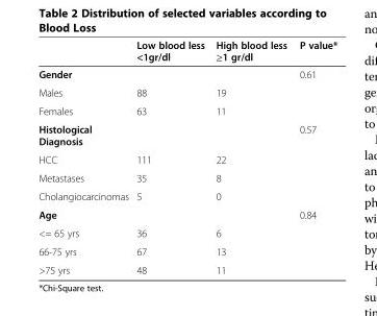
<table><thead><tr><td></td><td>Low blood less &lt;1gr/dl</td><td>High blood less ≥1 gr/dl</td><td>P value*</td></tr></thead><tbody><tr><td>Gender</td><td></td><td></td><td>0.61</td></tr><tr><td>Males</td><td>88</td><td>19</td><td></td></tr><tr><td>Females</td><td>63</td><td>11</td><td></td></tr><tr><td>Histological Diagnosis</td><td></td><td></td><td>0.57</td></tr><tr><td>HCC</td><td>111</td><td>22</td><td></td></tr><tr><td>Metastases</td><td>35</td><td>8</td><td></td></tr><tr><td>Cholangiocarcinomas</td><td>5</td><td>0</td><td></td></tr><tr><td>Age</td><td></td><td></td><td>0.84</td></tr><tr><td>&lt;= 65 yrs</td><td>36</td><td>6</td><td></td></tr><tr><td>66-75 yrs</td><td>67</td><td>13</td><td></td></tr><tr><td>&gt;75 yrs</td><td>48</td><td>11</td><td></td></tr></tbody></table>